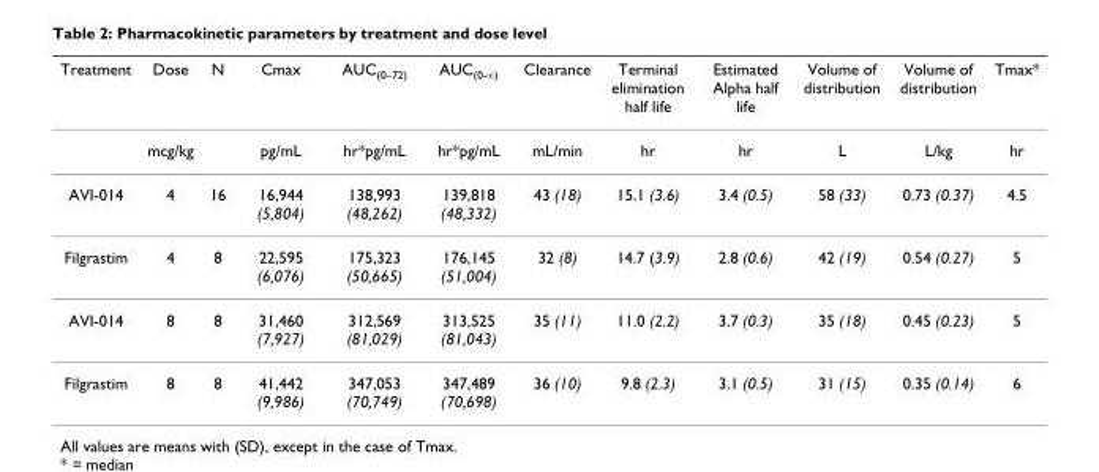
<table><thead><tr><td>Treatment</td><td>Dose</td><td>N</td><td>Cmax</td><td>AUC<sub>(0–72)</sub></td><td>AUC<sub>(0-∞)</sub></td><td>Clearance</td><td>Terminal elimination half life</td><td>Estimated Alpha half life</td><td>Volume of distribution</td><td>Volume of distribution</td><td>Tmax*</td></tr></thead><tbody><tr><td></td><td>mcg/kg</td><td></td><td>pg/mL</td><td>hr*pg/mL</td><td>hr*pg/mL</td><td>mL/min</td><td>hr</td><td>hr</td><td>L</td><td>L/kg</td><td>hr</td></tr><tr><td>AVI-014</td><td>4</td><td>16</td><td>16,944 (5,804)</td><td>138,993 (48,262)</td><td>139,818 (48,332)</td><td>43 (18)</td><td>15.1 (3.6)</td><td>3.4 (0.5)</td><td>58 (33)</td><td>0.73 (0.37)</td><td>4.5</td></tr><tr><td>Filgrastim</td><td>4</td><td>8</td><td>22,595 (6,076)</td><td>175,323 (50,665)</td><td>176,145 (51,004)</td><td>32 (8)</td><td>14.7 (3.9)</td><td>2.8 (0.6)</td><td>42 (19)</td><td>0.54 (0.27)</td><td>5</td></tr><tr><td>AVI-014</td><td>8</td><td>8</td><td>31,460 (7,927)</td><td>312,569 (81,029)</td><td>313,525 (81,043)</td><td>35 (11)</td><td>11.0 (2.2)</td><td>3.7 (0.3)</td><td>35 (18)</td><td>0.45 (0.23)</td><td>5</td></tr><tr><td>Filgrastim</td><td>8</td><td>8</td><td>41,442 (9,986)</td><td>347,053 (70,749)</td><td>347,489 (70,698)</td><td>36 (10)</td><td>9.8 (2.3)</td><td>3.1 (0.5)</td><td>31 (15)</td><td>0.35 (0.14)</td><td>6</td></tr></tbody></table>